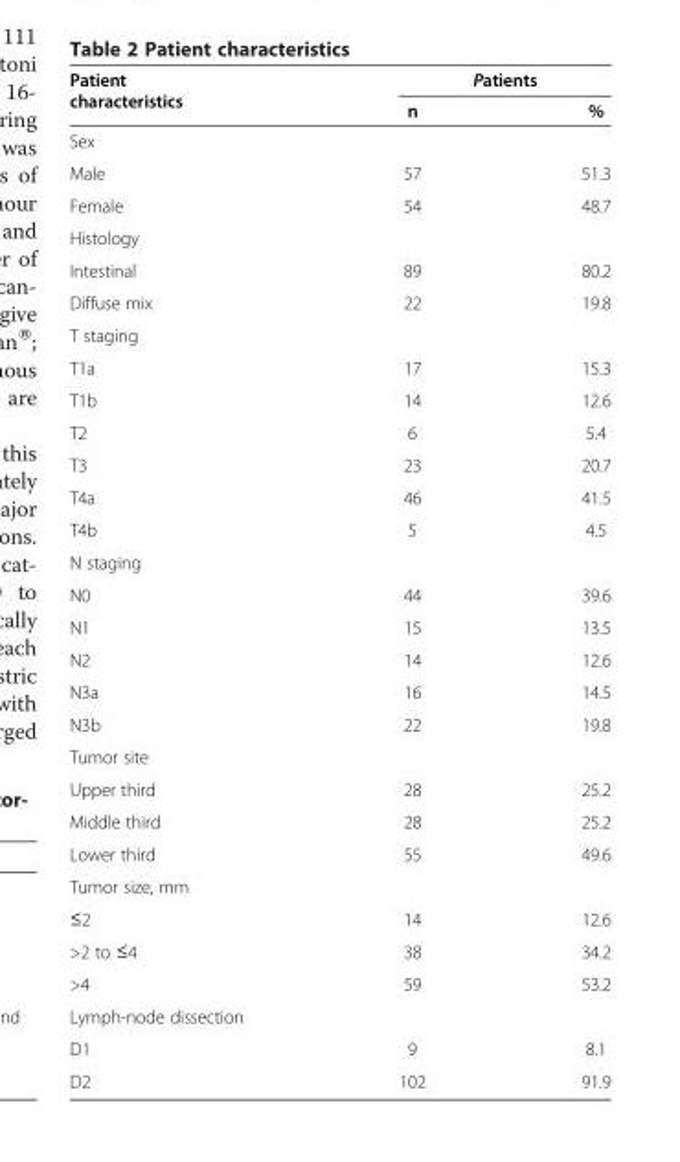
<table><thead><tr><td rowspan="2">Patient characteristics</td><td colspan="2">Patients</td></tr><tr><td>n</td><td>%</td></tr></thead><tbody><tr><td colspan="3">Sex</td></tr><tr><td>Male</td><td>57</td><td>51.3</td></tr><tr><td>Female</td><td>54</td><td>48.7</td></tr><tr><td colspan="3">Histology</td></tr><tr><td>Intestinal</td><td>89</td><td>80.2</td></tr><tr><td>Diffuse mix</td><td>22</td><td>19.8</td></tr><tr><td colspan="3">T staging</td></tr><tr><td>T1a</td><td>17</td><td>15.3</td></tr><tr><td>T1b</td><td>14</td><td>12.6</td></tr><tr><td>T2</td><td>6</td><td>5.4</td></tr><tr><td>T3</td><td>23</td><td>20.7</td></tr><tr><td>T4a</td><td>46</td><td>41.5</td></tr><tr><td>T4b</td><td>5</td><td>4.5</td></tr><tr><td colspan="3">N staging</td></tr><tr><td>N0</td><td>44</td><td>39.6</td></tr><tr><td>N1</td><td>15</td><td>13.5</td></tr><tr><td>N2</td><td>14</td><td>12.6</td></tr><tr><td>N3a</td><td>16</td><td>14.5</td></tr><tr><td>N3b</td><td>22</td><td>19.8</td></tr><tr><td colspan="3">Tumor site</td></tr><tr><td>Upper third</td><td>28</td><td>25.2</td></tr><tr><td>Middle third</td><td>28</td><td>25.2</td></tr><tr><td>Lower third</td><td>55</td><td>49.6</td></tr><tr><td colspan="3">Tumor size, mm</td></tr><tr><td>≤2</td><td>14</td><td>12.6</td></tr><tr><td>&gt;2 to ≤4</td><td>38</td><td>34.2</td></tr><tr><td>&gt;4</td><td>59</td><td>53.2</td></tr><tr><td colspan="3">Lymph-node dissection</td></tr><tr><td>D1</td><td>9</td><td>8.1</td></tr><tr><td>D2</td><td>102</td><td>91.9</td></tr></tbody></table>